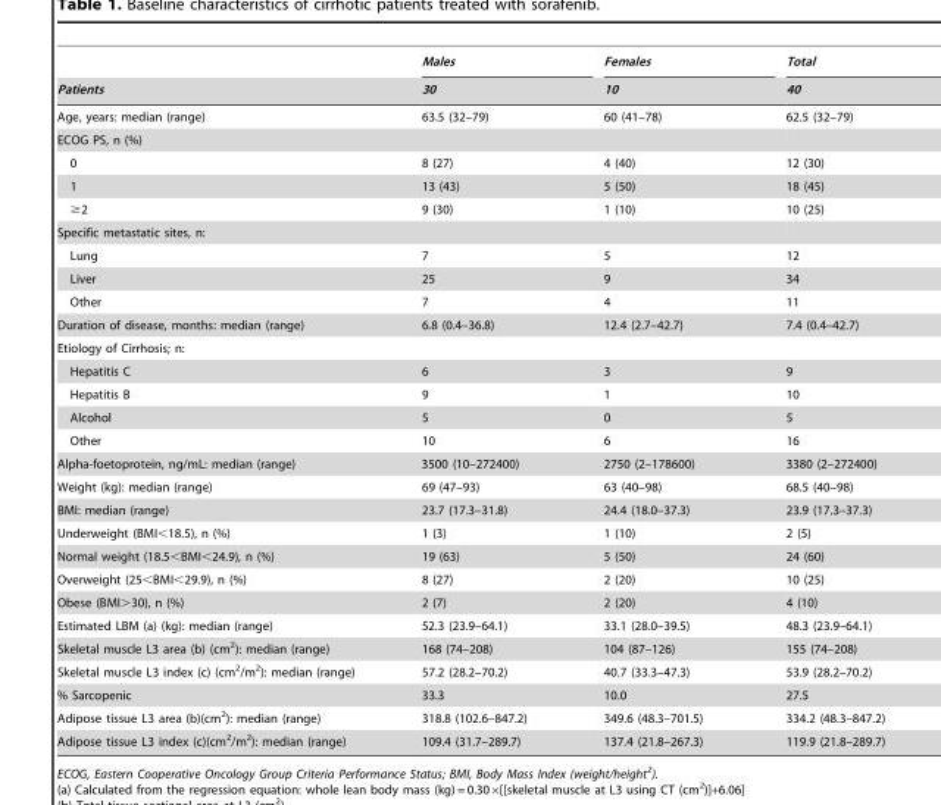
<table><thead><tr><td rowspan="2">Patients</td><td rowspan="2">Males 30</td><td rowspan="2">Females 10</td><td rowspan="2">Total 40</td></tr><tr></tr></thead><tbody><tr><td>Age, years: median (range)</td><td>63.5 (32–79)</td><td>60 (41–78)</td><td>62.5 (32–79)</td></tr><tr><td colspan="4">ECOG PS, n (%)</td></tr><tr><td>0</td><td>8 (27)</td><td>4 (40)</td><td>12 (30)</td></tr><tr><td>1</td><td>13 (43)</td><td>5 (50)</td><td>18 (45)</td></tr><tr><td>≥2</td><td>9 (30)</td><td>1 (10)</td><td>10 (25)</td></tr><tr><td colspan="4">Specific metastatic sites, n:</td></tr><tr><td>Lung</td><td>7</td><td>5</td><td>12</td></tr><tr><td>Liver</td><td>25</td><td>9</td><td>34</td></tr><tr><td>Other</td><td>7</td><td>4</td><td>11</td></tr><tr><td>Duration of disease, months: median (range)</td><td>6.8 (0.4–36.8)</td><td>12.4 (2.7–42.7)</td><td>7.4 (0.4–42.7)</td></tr><tr><td colspan="4">Etiology of Cirrhosis; n:</td></tr><tr><td>Hepatitis C</td><td>6</td><td>3</td><td>9</td></tr><tr><td>Hepatitis B</td><td>9</td><td>1</td><td>10</td></tr><tr><td>Alcohol</td><td>5</td><td>0</td><td>5</td></tr><tr><td>Other</td><td>10</td><td>6</td><td>16</td></tr><tr><td>Alpha-foetoprotein, ng/mL: median (range)</td><td>3500 (10–272400)</td><td>2750 (2–178600)</td><td>3380 (2–272400)</td></tr><tr><td>Weight (kg): median (range)</td><td>69 (47–93)</td><td>63 (40–98)</td><td>68.5 (40–98)</td></tr><tr><td>BMI: median (range)</td><td>23.7 (17.3–31.8)</td><td>24.4 (18.0–37.3)</td><td>23.9 (17.3–37.3)</td></tr><tr><td>Underweight (BMI&lt;18.5), n (%)</td><td>1 (3)</td><td>1 (10)</td><td>2 (5)</td></tr><tr><td>Normal weight (18.5&lt;BMI&lt;24.9), n (%)</td><td>19 (63)</td><td>5 (50)</td><td>24 (60)</td></tr><tr><td>Overweight (25&lt;BMI&lt;29.9), n (%)</td><td>8 (27)</td><td>2 (20)</td><td>10 (25)</td></tr><tr><td>Obese (BMI&gt;30), n (%)</td><td>2 (7)</td><td>2 (20)</td><td>4 (10)</td></tr><tr><td>Estimated LBM (a) (kg): median (range)</td><td>52.3 (23.9–64.1)</td><td>33.1 (28.0–39.5)</td><td>48.3 (23.9–64.1)</td></tr><tr><td>Skeletal muscle L3 area (b) (cm<sup>2</sup>): median (range)</td><td>168 (74–208)</td><td>104 (87–126)</td><td>155 (74–208)</td></tr><tr><td>Skeletal muscle L3 index (c) (cm<sup>2</sup>/m<sup>2</sup>): median (range)</td><td>57.2 (28.2–70.2)</td><td>40.7 (33.3–47.3)</td><td>53.9 (28.2–70.2)</td></tr><tr><td>% Sarcopenic</td><td>33.3</td><td>10.0</td><td>27.5</td></tr><tr><td>Adipose tissue L3 area (b)(cm<sup>2</sup>): median (range)</td><td>318.8 (102.6–847.2)</td><td>349.6 (48.3–701.5)</td><td>334.2 (48.3–847.2)</td></tr><tr><td>Adipose tissue L3 index (c)(cm<sup>2</sup>/m<sup>2</sup>): median (range)</td><td>109.4 (31.7–289.7)</td><td>137.4 (21.8–267.3)</td><td>119.9 (21.8–289.7)</td></tr></tbody></table>